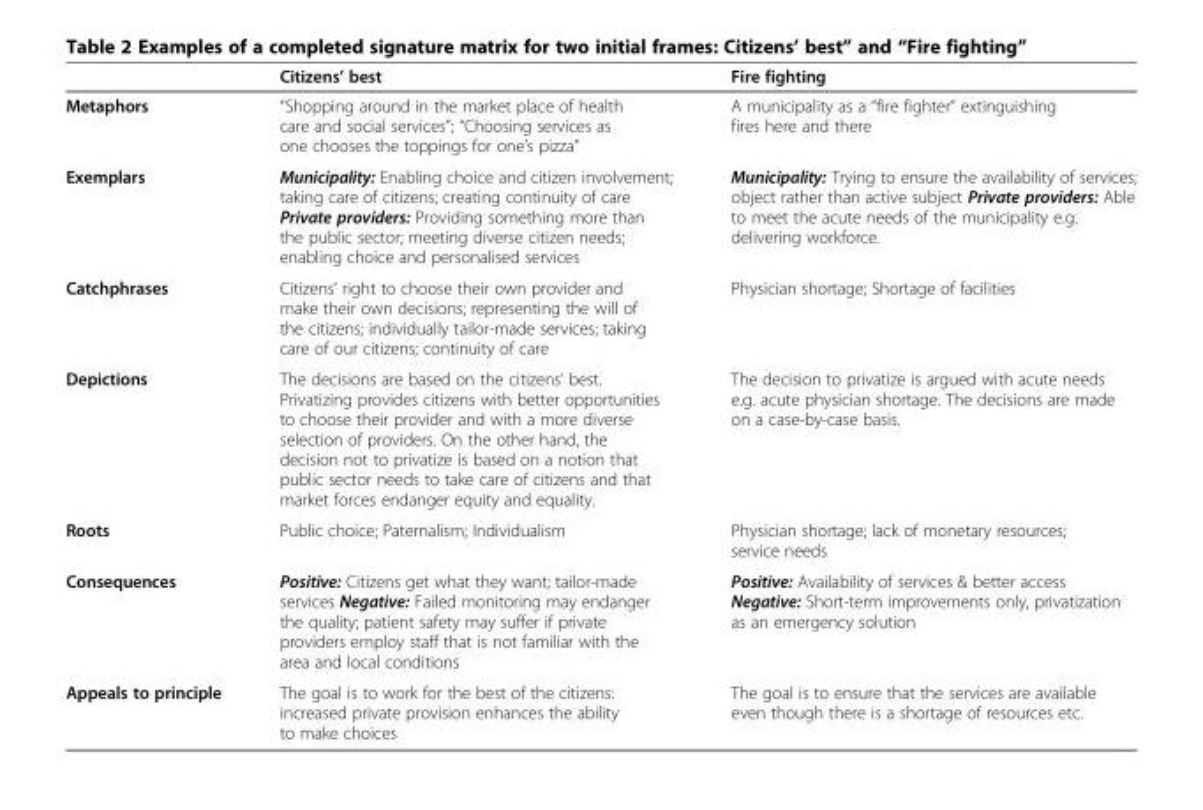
<table><thead><tr><td></td><td>Citizens’ best</td><td>Fire fighting</td></tr></thead><tbody><tr><td>Metaphors</td><td>“Shopping around in the market place of health care and social services”; “Choosing services as one chooses the toppings for one’s pizza”</td><td>A municipality as a “fire fighter” extinguishing fires here and there</td></tr><tr><td>Exemplars</td><td>Municipality: Enabling choice and citizen involvement; taking care of citizens; creating continuity of care Private providers: Providing something more than the public sector; meeting diverse citizen needs; enabling choice and personalised services</td><td>Municipality: Trying to ensure the availability of services; object rather than active subject Private providers: Able to meet the acute needs of the municipality e.g. delivering workforce.</td></tr><tr><td>Catchphrases</td><td>Citizens’ right to choose their own provider and make their own decisions; representing the will of the citizens; individually tailor-made services; taking care of our citizens; continuity of care</td><td>Physician shortage; Shortage of facilities</td></tr><tr><td>Depictions</td><td>The decisions are based on the citizens’ best. Privatizing provides citizens with better opportunities to choose their provider and with a more diverse selection of providers. On the other hand, the decision not to privatize is based on a notion that public sector needs to take care of citizens and that market forces endanger equity and equality.</td><td>The decision to privatize is argued with acute needs e.g. acute physician shortage. The decisions are made on a case-by-case basis.</td></tr><tr><td>Roots</td><td>Public choice; Paternalism; Individualism</td><td>Physician shortage; lack of monetary resources; service needs</td></tr><tr><td>Consequences</td><td>Positive: Citizens get what they want; tailor-made services Negative: Failed monitoring may endanger the quality; patient safety may suffer if private providers employ staff that is not familiar with the area and local conditions</td><td>Positive: Availability of services &amp; better access Negative: Short-term improvements only, privatization as an emergency solution</td></tr><tr><td>Appeals to principle</td><td>The goal is to work for the best of the citizens: increased private provision enhances the ability to make choices</td><td>The goal is to ensure that the services are available even though there is a shortage of resources etc.</td></tr></tbody></table>